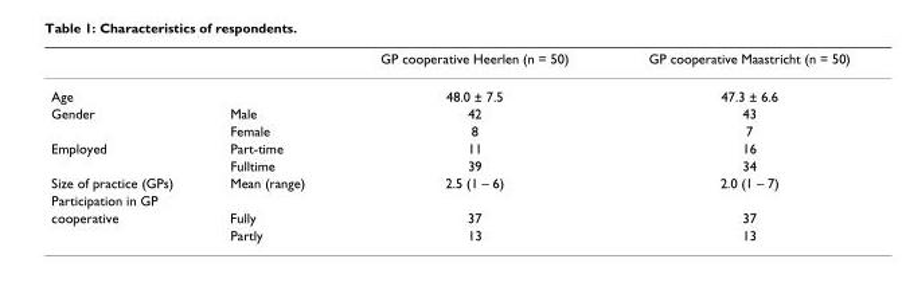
<table><thead><tr><td></td><td></td><td>GP cooperative Heerlen (n = 50)</td><td>GP cooperative Maastricht (n = 50)</td></tr></thead><tbody><tr><td>Age</td><td></td><td>48.0 ± 7.5</td><td>47.3 ± 6.6</td></tr><tr><td rowspan="2">Gender</td><td>Male</td><td>42</td><td>43</td></tr><tr><td>Female</td><td>8</td><td>7</td></tr><tr><td rowspan="2">Employed</td><td>Part-time</td><td>11</td><td>16</td></tr><tr><td>Fulltime</td><td>39</td><td>34</td></tr><tr><td>Size of practice (GPs)</td><td>Mean (range)</td><td>2.5 (1 – 6)</td><td>2.0 (1 – 7)</td></tr><tr><td colspan="4">Participation in GP</td></tr><tr><td rowspan="2">cooperative</td><td>Fully</td><td>37</td><td>37</td></tr><tr><td>Partly</td><td>13</td><td>13</td></tr></tbody></table>